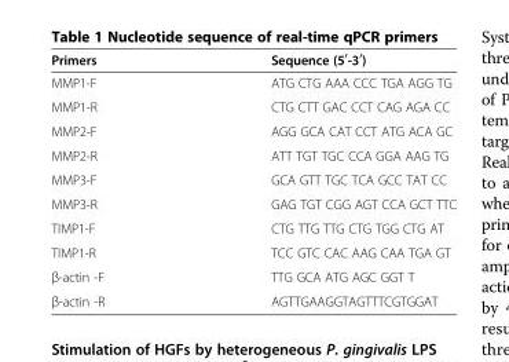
<table><thead><tr><td>Primers</td><td>Sequence (5<sup>′</sup>-3<sup>′</sup>)</td></tr></thead><tbody><tr><td>MMP1-F</td><td>ATG CTG AAA CCC TGA AGG TG</td></tr><tr><td>MMP1-R</td><td>CTG CTT GAC CCT CAG AGA CC</td></tr><tr><td>MMP2-F</td><td>AGG GCA CAT CCT ATG ACA GC</td></tr><tr><td>MMP2-R</td><td>ATT TGT TGC CCA GGA AAG TG</td></tr><tr><td>MMP3-F</td><td>GCA GTT TGC TCA GCC TAT CC</td></tr><tr><td>MMP3-R</td><td>GAG TGT CGG AGT CCA GCT TTC</td></tr><tr><td>TIMP1-F</td><td>CTG TTG TTG CTG TGG CTG AT</td></tr><tr><td>TIMP1-R</td><td>TCC GTC CAC AAG CAA TGA GT</td></tr><tr><td>β-actin -F</td><td>TTG GCA ATG AGC GGT T</td></tr><tr><td>β-actin -R</td><td>AGTTGAAGGTAGTTTCGTGGAT</td></tr></tbody></table>